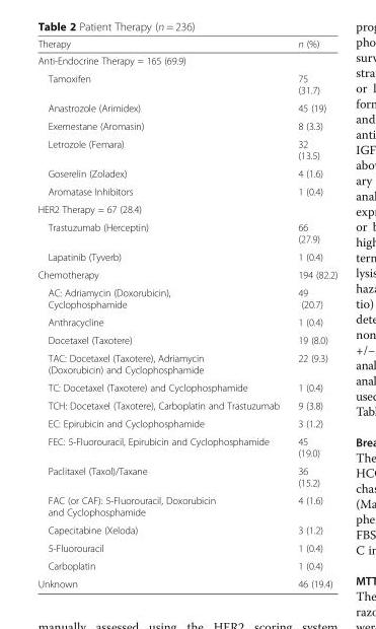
<table><thead><tr><td>Therapy</td><td>n (%)</td></tr></thead><tbody><tr><td colspan="2">Anti-Endocrine Therapy = 165 (69.9)</td></tr><tr><td>Tamoxifen</td><td>75 (31.7)</td></tr><tr><td>Anastrozole (Arimidex)</td><td>45 (19)</td></tr><tr><td>Exemestane (Aromasin)</td><td>8 (3.3)</td></tr><tr><td>Letrozole (Femara)</td><td>32 (13.5)</td></tr><tr><td>Goserelin (Zoladex)</td><td>4 (1.6)</td></tr><tr><td>Aromatase Inhibitors</td><td>1 (0.4)</td></tr><tr><td colspan="2">HER2 Therapy = 67 (28.4)</td></tr><tr><td>Trastuzumab (Herceptin)</td><td>66 (27.9)</td></tr><tr><td>Lapatinib (Tyverb)</td><td>1 (0.4)</td></tr><tr><td>Chemotherapy</td><td>194 (82.2)</td></tr><tr><td>AC: Adriamycin (Doxorubicin), Cyclophosphamide</td><td>49 (20.7)</td></tr><tr><td>Anthracycline</td><td>1 (0.4)</td></tr><tr><td>Docetaxel (Taxotere)</td><td>19 (8.0)</td></tr><tr><td>TAC: Docetaxel (Taxotere), Adriamycin (Doxorubicin) and Cyclophosphamide</td><td>22 (9.3)</td></tr><tr><td>TC: Docetaxel (Taxotere) and Cyclophosphamide</td><td>1 (0.4)</td></tr><tr><td>TCH: Docetaxel (Taxotere), Carboplatin and Trastuzumab</td><td>9 (3.8)</td></tr><tr><td>EC: Epirubicin and Cyclophosphamide</td><td>3 (1.2)</td></tr><tr><td>FEC: 5-Fluorouracil, Epirubicin and Cyclophosphamide</td><td>45 (19.0)</td></tr><tr><td>Paclitaxel (Taxol)/Taxane</td><td>36 (15.2)</td></tr><tr><td>FAC (or CAF): 5-Fluorouracil, Doxorubicin and Cyclophosphamide</td><td>4 (1.6)</td></tr><tr><td>Capecitabine (Xeloda)</td><td>3 (1.2)</td></tr><tr><td>5-Fluorouracil</td><td>1 (0.4)</td></tr><tr><td>Carboplatin</td><td>1 (0.4)</td></tr><tr><td>Unknown</td><td>46 (19.4)</td></tr></tbody></table>